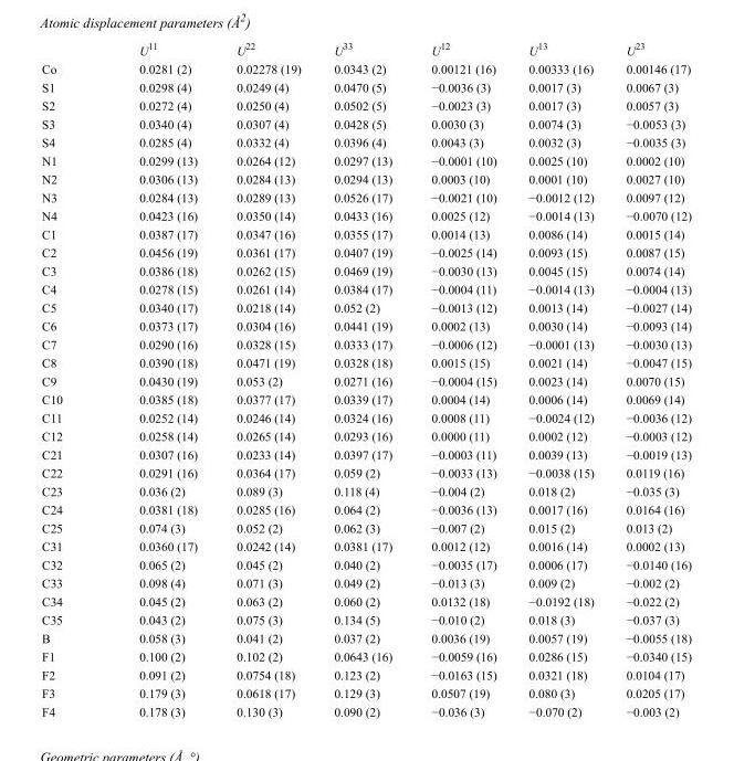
<table><thead><tr><td></td><td>U<sup>11</sup></td><td>U<sup>22</sup></td><td>U<sup>33</sup></td><td>U<sup>12</sup></td><td>U<sup>13</sup></td><td>U<sup>23</sup></td></tr></thead><tbody><tr><td>Co</td><td>0.0281 (2)</td><td>0.02278 (19)</td><td>0.0343 (2)</td><td>0.00121 (16)</td><td>0.00333 (16)</td><td>0.00146 (17)</td></tr><tr><td>S1</td><td>0.0298 (4)</td><td>0.0249 (4)</td><td>0.0470 (5)</td><td>−0.0036 (3)</td><td>0.0017 (3)</td><td>0.0067 (3)</td></tr><tr><td>S2</td><td>0.0272 (4)</td><td>0.0250 (4)</td><td>0.0502 (5)</td><td>−0.0023 (3)</td><td>0.0017 (3)</td><td>0.0057 (3)</td></tr><tr><td>S3</td><td>0.0340 (4)</td><td>0.0307 (4)</td><td>0.0428 (5)</td><td>0.0030 (3)</td><td>0.0074 (3)</td><td>−0.0053 (3)</td></tr><tr><td>S4</td><td>0.0285 (4)</td><td>0.0332 (4)</td><td>0.0396 (4)</td><td>0.0043 (3)</td><td>0.0032 (3)</td><td>−0.0035 (3)</td></tr><tr><td>N1</td><td>0.0299 (13)</td><td>0.0264 (12)</td><td>0.0297 (13)</td><td>−0.0001 (10)</td><td>0.0025 (10)</td><td>0.0002 (10)</td></tr><tr><td>N2</td><td>0.0306 (13)</td><td>0.0284 (13)</td><td>0.0294 (13)</td><td>0.0003 (10)</td><td>0.0001 (10)</td><td>0.0027 (10)</td></tr><tr><td>N3</td><td>0.0284 (13)</td><td>0.0289 (13)</td><td>0.0526 (17)</td><td>−0.0021 (10)</td><td>−0.0012 (12)</td><td>0.0097 (12)</td></tr><tr><td>N4</td><td>0.0423 (16)</td><td>0.0350 (14)</td><td>0.0433 (16)</td><td>0.0025 (12)</td><td>−0.0014 (13)</td><td>−0.0070 (12)</td></tr><tr><td>C1</td><td>0.0387 (17)</td><td>0.0347 (16)</td><td>0.0355 (17)</td><td>0.0014 (13)</td><td>0.0086 (14)</td><td>0.0015 (14)</td></tr><tr><td>C2</td><td>0.0456 (19)</td><td>0.0361 (17)</td><td>0.0407 (19)</td><td>−0.0025 (14)</td><td>0.0093 (15)</td><td>0.0087 (15)</td></tr><tr><td>C3</td><td>0.0386 (18)</td><td>0.0262 (15)</td><td>0.0469 (19)</td><td>−0.0030 (13)</td><td>0.0045 (15)</td><td>0.0074 (14)</td></tr><tr><td>C4</td><td>0.0278 (15)</td><td>0.0261 (14)</td><td>0.0384 (17)</td><td>−0.0004 (11)</td><td>−0.0014 (13)</td><td>−0.0004 (13)</td></tr><tr><td>C5</td><td>0.0340 (17)</td><td>0.0218 (14)</td><td>0.052 (2)</td><td>−0.0013 (12)</td><td>0.0013 (14)</td><td>−0.0027 (14)</td></tr><tr><td>C6</td><td>0.0373 (17)</td><td>0.0304 (16)</td><td>0.0441 (19)</td><td>0.0002 (13)</td><td>0.0030 (14)</td><td>−0.0093 (14)</td></tr><tr><td>C7</td><td>0.0290 (16)</td><td>0.0328 (15)</td><td>0.0333 (17)</td><td>−0.0006 (12)</td><td>−0.0001 (13)</td><td>−0.0030 (13)</td></tr><tr><td>C8</td><td>0.0390 (18)</td><td>0.0471 (19)</td><td>0.0328 (18)</td><td>0.0015 (15)</td><td>0.0021 (14)</td><td>−0.0047 (15)</td></tr><tr><td>C9</td><td>0.0430 (19)</td><td>0.053 (2)</td><td>0.0271 (16)</td><td>−0.0004 (15)</td><td>0.0023 (14)</td><td>0.0070 (15)</td></tr><tr><td>C10</td><td>0.0385 (18)</td><td>0.0377 (17)</td><td>0.0339 (17)</td><td>0.0004 (14)</td><td>0.0006 (14)</td><td>0.0069 (14)</td></tr><tr><td>C11</td><td>0.0252 (14)</td><td>0.0246 (14)</td><td>0.0324 (16)</td><td>0.0008 (11)</td><td>−0.0024 (12)</td><td>−0.0036 (12)</td></tr><tr><td>C12</td><td>0.0258 (14)</td><td>0.0265 (14)</td><td>0.0293 (16)</td><td>0.0000 (11)</td><td>0.0002 (12)</td><td>−0.0003 (12)</td></tr><tr><td>C21</td><td>0.0307 (16)</td><td>0.0233 (14)</td><td>0.0397 (17)</td><td>−0.0003 (11)</td><td>0.0039 (13)</td><td>−0.0019 (13)</td></tr><tr><td>C22</td><td>0.0291 (16)</td><td>0.0364 (17)</td><td>0.059 (2)</td><td>−0.0033 (13)</td><td>−0.0038 (15)</td><td>0.0119 (16)</td></tr><tr><td>C23</td><td>0.036 (2)</td><td>0.089 (3)</td><td>0.118 (4)</td><td>−0.004 (2)</td><td>0.018 (2)</td><td>−0.035 (3)</td></tr><tr><td>C24</td><td>0.0381 (18)</td><td>0.0285 (16)</td><td>0.064 (2)</td><td>−0.0036 (13)</td><td>0.0017 (16)</td><td>0.0164 (16)</td></tr><tr><td>C25</td><td>0.074 (3)</td><td>0.052 (2)</td><td>0.062 (3)</td><td>−0.007 (2)</td><td>0.015 (2)</td><td>0.013 (2)</td></tr><tr><td>C31</td><td>0.0360 (17)</td><td>0.0242 (14)</td><td>0.0381 (17)</td><td>0.0012 (12)</td><td>0.0016 (14)</td><td>0.0002 (13)</td></tr><tr><td>C32</td><td>0.065 (2)</td><td>0.045 (2)</td><td>0.040 (2)</td><td>−0.0035 (17)</td><td>0.0006 (17)</td><td>−0.0140 (16)</td></tr><tr><td>C33</td><td>0.098 (4)</td><td>0.071 (3)</td><td>0.049 (2)</td><td>−0.013 (3)</td><td>0.009 (2)</td><td>−0.002 (2)</td></tr><tr><td>C34</td><td>0.045 (2)</td><td>0.063 (2)</td><td>0.060 (2)</td><td>0.0132 (18)</td><td>−0.0192 (18)</td><td>−0.022 (2)</td></tr><tr><td>C35</td><td>0.043 (2)</td><td>0.075 (3)</td><td>0.134 (5)</td><td>−0.010 (2)</td><td>0.018 (3)</td><td>−0.037 (3)</td></tr><tr><td>B</td><td>0.058 (3)</td><td>0.041 (2)</td><td>0.037 (2)</td><td>0.0036 (19)</td><td>0.0057 (19)</td><td>−0.0055 (18)</td></tr><tr><td>F1</td><td>0.100 (2)</td><td>0.102 (2)</td><td>0.0643 (16)</td><td>−0.0059 (16)</td><td>0.0286 (15)</td><td>−0.0340 (15)</td></tr><tr><td>F2</td><td>0.091 (2)</td><td>0.0754 (18)</td><td>0.123 (2)</td><td>−0.0163 (15)</td><td>0.0321 (18)</td><td>0.0104 (17)</td></tr><tr><td>F3</td><td>0.179 (3)</td><td>0.0618 (17)</td><td>0.129 (3)</td><td>0.0507 (19)</td><td>0.080 (3)</td><td>0.0205 (17)</td></tr><tr><td>F4</td><td>0.178 (3)</td><td>0.130 (3)</td><td>0.090 (2)</td><td>−0.036 (3)</td><td>−0.070 (2)</td><td>−0.003 (2)</td></tr></tbody></table>